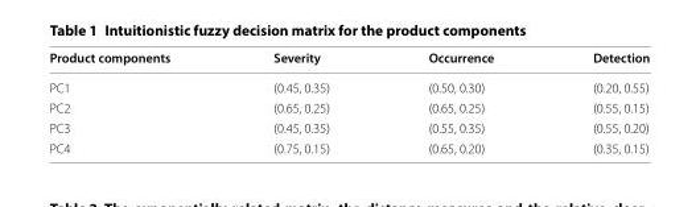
<table><thead><tr><td>Product components</td><td>Severity</td><td>Occurrence</td><td>Detection</td></tr></thead><tbody><tr><td>PC1</td><td>(0.45, 0.35)</td><td>(0.50, 0.30)</td><td>(0.20, 0.55)</td></tr><tr><td>PC2</td><td>(0.65, 0.25)</td><td>(0.65, 0.25)</td><td>(0.55, 0.15)</td></tr><tr><td>PC3</td><td>(0.45, 0.35)</td><td>(0.55, 0.35)</td><td>(0.55, 0.20)</td></tr><tr><td>PC4</td><td>(0.75, 0.15)</td><td>(0.65, 0.20)</td><td>(0.35, 0.15)</td></tr></tbody></table>